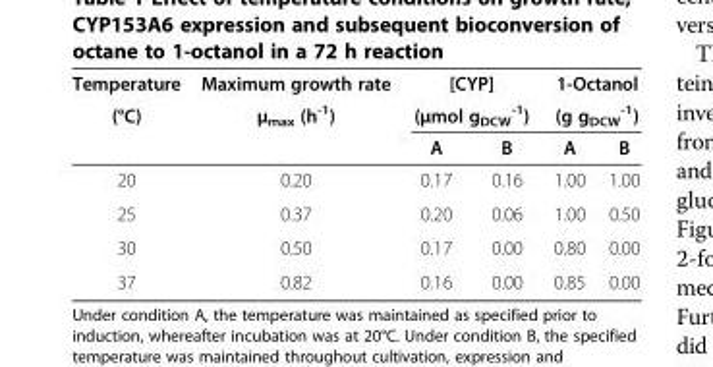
<table><thead><tr><td rowspan="3">Temperature (°C)</td><td rowspan="3">Maximum growth rate μ<sub>max</sub> (h<sup>-1</sup>)</td><td rowspan="2" colspan="2">[CYP] (μmol g<sub>DCW</sub> <sup>-1</sup>)</td><td rowspan="2" colspan="2">1-Octanol (g g<sub>DCW</sub> <sup>-1</sup>)</td></tr><tr></tr><tr><td>A</td><td>B</td><td>A</td><td>B</td></tr></thead><tbody><tr><td>20</td><td>0.20</td><td>0.17</td><td>0.16</td><td>1.00</td><td>1.00</td></tr><tr><td>25</td><td>0.37</td><td>0.20</td><td>0.06</td><td>1.00</td><td>0.50</td></tr><tr><td>30</td><td>0.50</td><td>0.17</td><td>0.00</td><td>0.80</td><td>0.00</td></tr><tr><td>37</td><td>0.82</td><td>0.16</td><td>0.00</td><td>0.85</td><td>0.00</td></tr></tbody></table>